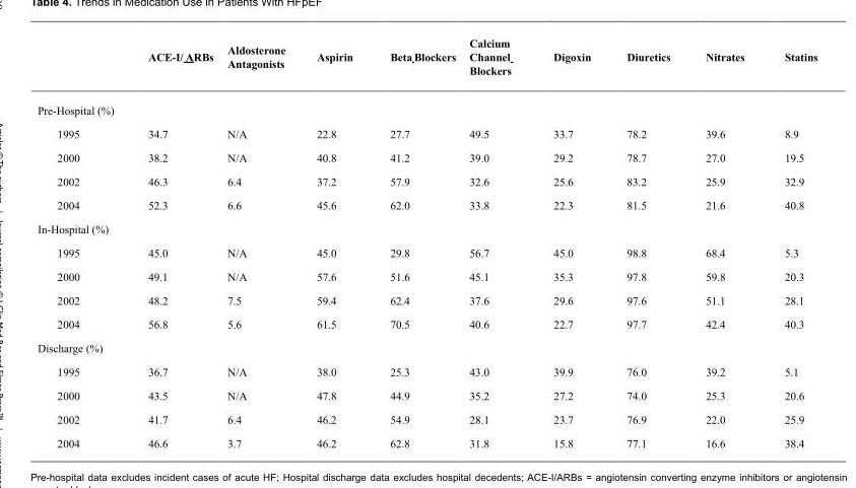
<table><thead><tr><td></td><td>ACE-I/ ARBs</td><td>Aldosterone Antagonists</td><td>Aspirin</td><td>Beta Blockers</td><td>Calcium Channel Blockers</td><td>Digoxin</td><td>Diuretics</td><td>Nitrates</td><td>Statins</td></tr></thead><tbody><tr><td colspan="10">Pre-Hospital (%)</td></tr><tr><td>1995</td><td>34.7</td><td>N/A</td><td>22.8</td><td>27.7</td><td>49.5</td><td>33.7</td><td>78.2</td><td>39.6</td><td>8.9</td></tr><tr><td>2000</td><td>38.2</td><td>N/A</td><td>40.8</td><td>41.2</td><td>39.0</td><td>29.2</td><td>78.7</td><td>27.0</td><td>19.5</td></tr><tr><td>2002</td><td>46.3</td><td>6.4</td><td>37.2</td><td>57.9</td><td>32.6</td><td>25.6</td><td>83.2</td><td>25.9</td><td>32.9</td></tr><tr><td>2004</td><td>52.3</td><td>6.6</td><td>45.6</td><td>62.0</td><td>33.8</td><td>22.3</td><td>81.5</td><td>21.6</td><td>40.8</td></tr><tr><td colspan="10">In-Hospital (%)</td></tr><tr><td>1995</td><td>45.0</td><td>N/A</td><td>45.0</td><td>29.8</td><td>56.7</td><td>45.0</td><td>98.8</td><td>68.4</td><td>5.3</td></tr><tr><td>2000</td><td>49.1</td><td>N/A</td><td>57.6</td><td>51.6</td><td>45.1</td><td>35.3</td><td>97.8</td><td>59.8</td><td>20.3</td></tr><tr><td>2002</td><td>48.2</td><td>7.5</td><td>59.4</td><td>62.4</td><td>37.6</td><td>29.6</td><td>97.6</td><td>51.1</td><td>28.1</td></tr><tr><td>2004</td><td>56.8</td><td>5.6</td><td>61.5</td><td>70.5</td><td>40.6</td><td>22.7</td><td>97.7</td><td>42.4</td><td>40.3</td></tr><tr><td colspan="10">Discharge (%)</td></tr><tr><td>1995</td><td>36.7</td><td>N/A</td><td>38.0</td><td>25.3</td><td>43.0</td><td>39.9</td><td>76.0</td><td>39.2</td><td>5.1</td></tr><tr><td>2000</td><td>43.5</td><td>N/A</td><td>47.8</td><td>44.9</td><td>35.2</td><td>27.2</td><td>74.0</td><td>25.3</td><td>20.6</td></tr><tr><td>2002</td><td>41.7</td><td>6.4</td><td>46.2</td><td>54.9</td><td>28.1</td><td>23.7</td><td>76.9</td><td>22.0</td><td>25.9</td></tr><tr><td>2004</td><td>46.6</td><td>3.7</td><td>46.2</td><td>62.8</td><td>31.8</td><td>15.8</td><td>77.1</td><td>16.6</td><td>38.4</td></tr></tbody></table>